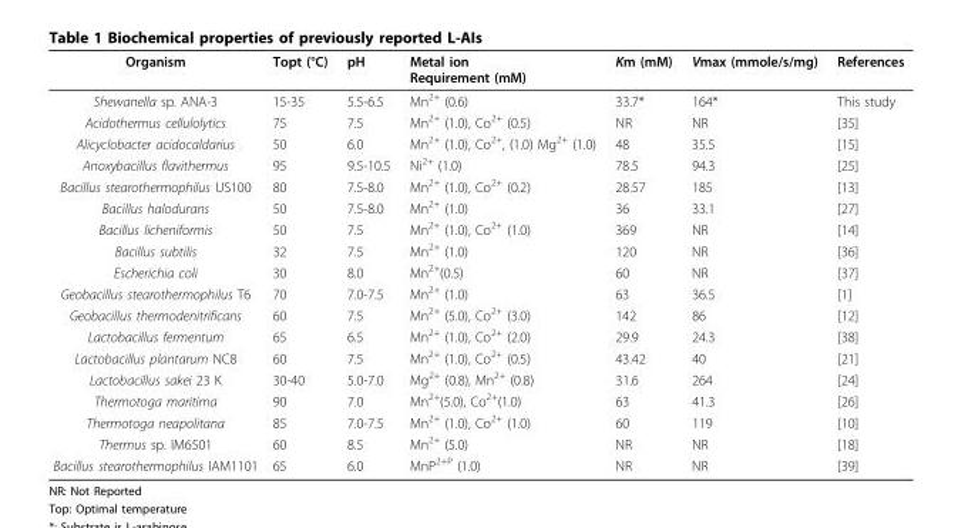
<table><thead><tr><td>Organism</td><td>Topt (°C)</td><td>pH</td><td>Metal ion Requirement (mM)</td><td>Km (mM)</td><td>Vmax (mmole/s/mg)</td><td>References</td></tr></thead><tbody><tr><td>Shewanella sp. ANA-3</td><td>15-35</td><td>5.5-6.5</td><td>Mn<sup>2+</sup> (0.6)</td><td>33.7*</td><td>164*</td><td>This study</td></tr><tr><td>Acidothermus cellulolytics</td><td>75</td><td>7.5</td><td>Mn<sup>2+</sup> (1.0), Co<sup>2+</sup> (0.5)</td><td>NR</td><td>NR</td><td>[35]</td></tr><tr><td>Alicyclobacter acidocaldarius</td><td>50</td><td>6.0</td><td>Mn<sup>2+</sup> (1.0), Co<sup>2+</sup>, (1.0) Mg<sup>2+</sup> (1.0)</td><td>48</td><td>35.5</td><td>[15]</td></tr><tr><td>Anoxybacillus flavithermus</td><td>95</td><td>9.5-10.5</td><td>Ni<sup>2+</sup> (1.0)</td><td>78.5</td><td>94.3</td><td>[25]</td></tr><tr><td>Bacillus stearothermophilus US100</td><td>80</td><td>7.5-8.0</td><td>Mn<sup>2+</sup> (1.0), Co<sup>2+</sup> (0.2)</td><td>28.57</td><td>185</td><td>[13]</td></tr><tr><td>Bacillus halodurans</td><td>50</td><td>7.5-8.0</td><td>Mn<sup>2+</sup> (1.0)</td><td>36</td><td>33.1</td><td>[27]</td></tr><tr><td>Bacillus licheniformis</td><td>50</td><td>7.5</td><td>Mn<sup>2+</sup> (1.0), Co<sup>2+</sup> (1.0)</td><td>369</td><td>NR</td><td>[14]</td></tr><tr><td>Bacillus subtilis</td><td>32</td><td>7.5</td><td>Mn<sup>2+</sup> (1.0)</td><td>120</td><td>NR</td><td>[36]</td></tr><tr><td>Escherichia coli</td><td>30</td><td>8.0</td><td>Mn<sup>2+</sup>(0.5)</td><td>60</td><td>NR</td><td>[37]</td></tr><tr><td>Geobacillus stearothermophilus T6</td><td>70</td><td>7.0-7.5</td><td>Mn<sup>2+</sup> (1.0)</td><td>63</td><td>36.5</td><td>[1]</td></tr><tr><td>Geobacillus thermodenitrificans</td><td>60</td><td>7.5</td><td>Mn<sup>2+</sup> (5.0), Co<sup>2+</sup> (3.0)</td><td>142</td><td>86</td><td>[12]</td></tr><tr><td>Lactobacillus fermentum</td><td>65</td><td>6.5</td><td>Mn<sup>2+</sup> (1.0), Co<sup>2+</sup> (2.0)</td><td>29.9</td><td>24.3</td><td>[38]</td></tr><tr><td>Lactobacillus plantarum NC8</td><td>60</td><td>7.5</td><td>Mn<sup>2+</sup> (1.0), Co<sup>2+</sup> (0.5)</td><td>43.42</td><td>40</td><td>[21]</td></tr><tr><td>Lactobacillus sakei 23 K</td><td>30-40</td><td>5.0-7.0</td><td>Mg<sup>2+</sup> (0.8), Mn<sup>2+</sup> (0.8)</td><td>31.6</td><td>264</td><td>[24]</td></tr><tr><td>Thermotoga maritima</td><td>90</td><td>7.0</td><td>Mn<sup>2+</sup>(5.0), Co<sup>2+</sup>(1.0)</td><td>63</td><td>41.3</td><td>[26]</td></tr><tr><td>Thermotoga neapolitana</td><td>85</td><td>7.0-7.5</td><td>Mn<sup>2+</sup> (1.0), Co<sup>2+</sup> (1.0)</td><td>60</td><td>119</td><td>[10]</td></tr><tr><td>Thermus sp. IM6501</td><td>60</td><td>8.5</td><td>Mn<sup>2+</sup> (5.0)</td><td>NR</td><td>NR</td><td>[18]</td></tr><tr><td>Bacillus stearothermophilus IAM1101</td><td>65</td><td>6.0</td><td>MnP<sup>2+P</sup> (1.0)</td><td>NR</td><td>NR</td><td>[39]</td></tr></tbody></table>